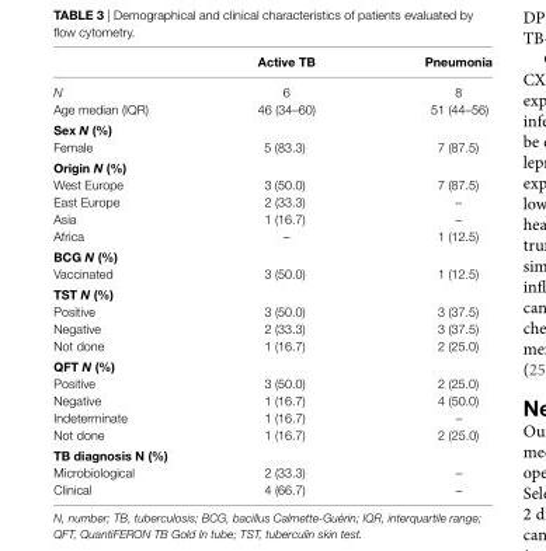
<table><thead><tr><td></td><td>active TB</td><td>Pneumonia</td></tr></thead><tbody><tr><td>N</td><td>6</td><td>8</td></tr><tr><td>Age median (IQR)</td><td>46 (34–60)</td><td>51 (44–56)</td></tr><tr><td colspan="3">sex N (%)</td></tr><tr><td>Female</td><td>5 (83.3)</td><td>7 (87.5)</td></tr><tr><td colspan="3">Origin N (%)</td></tr><tr><td>West Europe</td><td>3 (50.0)</td><td>7 (87.5)</td></tr><tr><td>East Europe</td><td>2 (33.3)</td><td>–</td></tr><tr><td>Asia</td><td>1 (16.7)</td><td>–</td></tr><tr><td>Africa</td><td>–</td><td>1 (12.5)</td></tr><tr><td colspan="3">Bcg N (%)</td></tr><tr><td>Vaccinated</td><td>3 (50.0)</td><td>1 (12.5)</td></tr><tr><td colspan="3">TsT N (%)</td></tr><tr><td>Positive</td><td>3 (50.0)</td><td>3 (37.5)</td></tr><tr><td>Negative</td><td>2 (33.3)</td><td>3 (37.5)</td></tr><tr><td>Not done</td><td>1 (16.7)</td><td>2 (25.0)</td></tr><tr><td colspan="3">QFT N (%)</td></tr><tr><td>Positive</td><td>3 (50.0)</td><td>2 (25.0)</td></tr><tr><td>Negative</td><td>1 (16.7)</td><td>4 (50.0)</td></tr><tr><td>Indeterminate</td><td>1 (16.7)</td><td>–</td></tr><tr><td>Not done</td><td>1 (16.7)</td><td>2 (25.0)</td></tr><tr><td colspan="3">TB diagnosis n (%)</td></tr><tr><td>Microbiological</td><td>2 (33.3)</td><td>–</td></tr><tr><td>Clinical</td><td>4 (66.7)</td><td>–</td></tr></tbody></table>